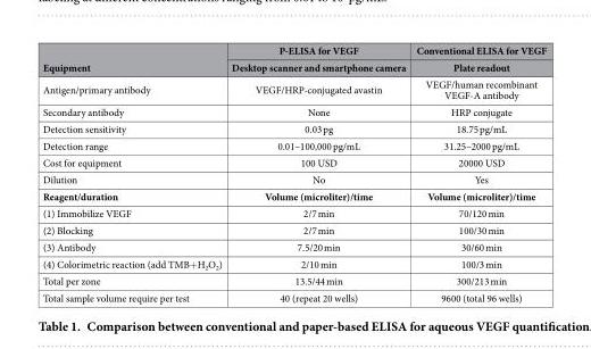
<table><thead><tr><td rowspan="2">Equipment</td><td rowspan="2">P-ELISA for VEGF Desktop scanner and smartphone camera</td><td rowspan="2">Conventional ELISA for VEGF Plate readout</td></tr><tr></tr></thead><tbody><tr><td>Antigen/primary antibody</td><td>VEGF/HRP-conjugated avastin</td><td>VEGF/human recombinant VEGF-A antibody</td></tr><tr><td>Secondary antibody</td><td>None</td><td>HRP conjugate</td></tr><tr><td>Detection sensitivity</td><td>0.03 pg</td><td>18.75 pg/mL</td></tr><tr><td>Detection range</td><td>0.01–100,000 pg/mL</td><td>31.25–2000 pg/mL</td></tr><tr><td>Cost for equipment</td><td>100 USD</td><td>20000 USD</td></tr><tr><td>Dilution</td><td>No</td><td>Yes</td></tr><tr><td>Reagent/duration</td><td>Volume (microliter)/time</td><td>Volume (microliter)/time</td></tr><tr><td>(1) Immobilize VEGF</td><td>2/7 min</td><td>70/120 min</td></tr><tr><td>(2) Blocking</td><td>2/7 min</td><td>100/30 min</td></tr><tr><td>(3) Antibody</td><td>7.5/20 min</td><td>30/60 min</td></tr><tr><td>(4) Colorimetric reaction (add TMB+ H<sub>2</sub>O<sub>2</sub>)</td><td>2/10 min</td><td>100/3 min</td></tr><tr><td>Total per zone</td><td>13.5/44 min</td><td>300/213 min</td></tr><tr><td>Total sample volume require per test</td><td>40 (repeat 20 wells)</td><td>9600 (total 96 wells)</td></tr></tbody></table>